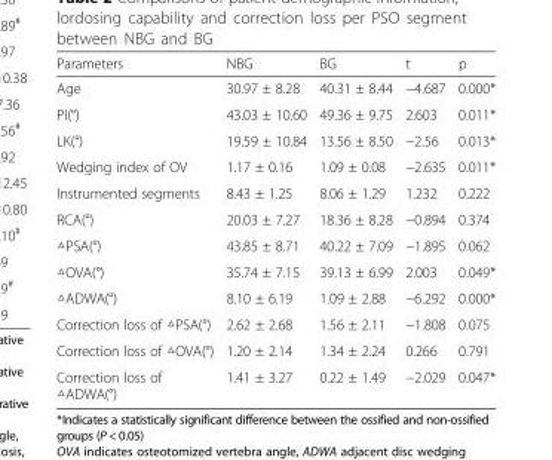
<table><thead><tr><td>Parameters</td><td>NBG</td><td>BG</td><td>t</td><td>p</td></tr></thead><tbody><tr><td>Age</td><td>30.97 ± 8.28</td><td>40.31 ± 8.44</td><td>−4.687</td><td>0.000*</td></tr><tr><td>PI(°)</td><td>43.03 ± 10.60</td><td>49.36 ± 9.75</td><td>2.603</td><td>0.011*</td></tr><tr><td>LK(°)</td><td>19.59 ± 10.84</td><td>13.56 ± 8.50</td><td>−2.56</td><td>0.013*</td></tr><tr><td>Wedging index of OV</td><td>1.17 ± 0.16</td><td>1.09 ± 0.08</td><td>−2.635</td><td>0.011*</td></tr><tr><td>Instrumented segments</td><td>8.43 ± 1.25</td><td>8.06 ± 1.29</td><td>1.232</td><td>0.222</td></tr><tr><td>RCA(°)</td><td>20.03 ± 7.27</td><td>18.36 ± 8.28</td><td>−0.894</td><td>0.374</td></tr><tr><td>△PSA(°)</td><td>43.85 ± 8.71</td><td>40.22 ± 7.09</td><td>−1.895</td><td>0.062</td></tr><tr><td>△OVA(°)</td><td>35.74 ± 7.15</td><td>39.13 ± 6.99</td><td>2.003</td><td>0.049*</td></tr><tr><td>△ADWA(°)</td><td>8.10 ± 6.19</td><td>1.09 ± 2.88</td><td>−6.292</td><td>0.000*</td></tr><tr><td>Correction loss of △PSA(°)</td><td>2.62 ± 2.68</td><td>1.56 ± 2.11</td><td>−1.808</td><td>0.075</td></tr><tr><td>Correction loss of △OVA(°)</td><td>1.20 ± 2.14</td><td>1.34 ± 2.24</td><td>0.266</td><td>0.791</td></tr><tr><td>Correction loss of △ADWA(°)</td><td>1.41 ± 3.27</td><td>0.22 ± 1.49</td><td>−2.029</td><td>0.047*</td></tr></tbody></table>